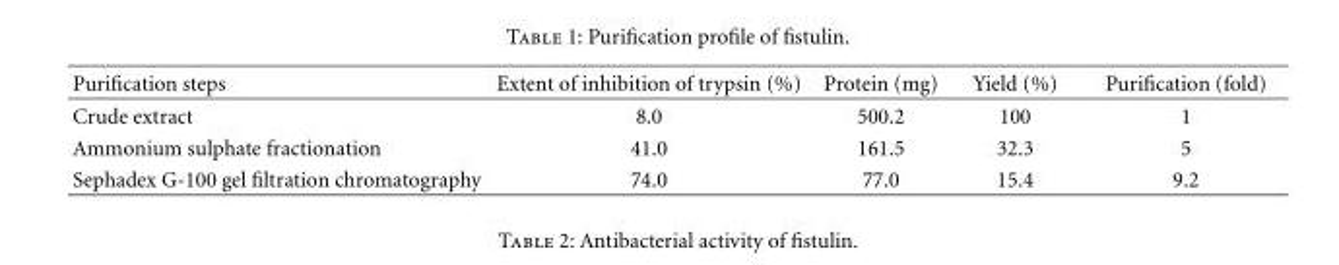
<table><thead><tr><td>Purification steps</td><td>Extent of inhibition of trypsin (%)</td><td>Protein (mg)</td><td>Yield (%)</td><td>Purification (fold)</td></tr></thead><tbody><tr><td>Crude extract</td><td>8.0</td><td>500.2</td><td>100</td><td>1</td></tr><tr><td>Ammonium sulphate fractionation</td><td>41.0</td><td>161.5</td><td>32.3</td><td>5</td></tr><tr><td>Sephadex G-100 gel filtration chromatography</td><td>74.0</td><td>77.0</td><td>15.4</td><td>9.2</td></tr></tbody></table>